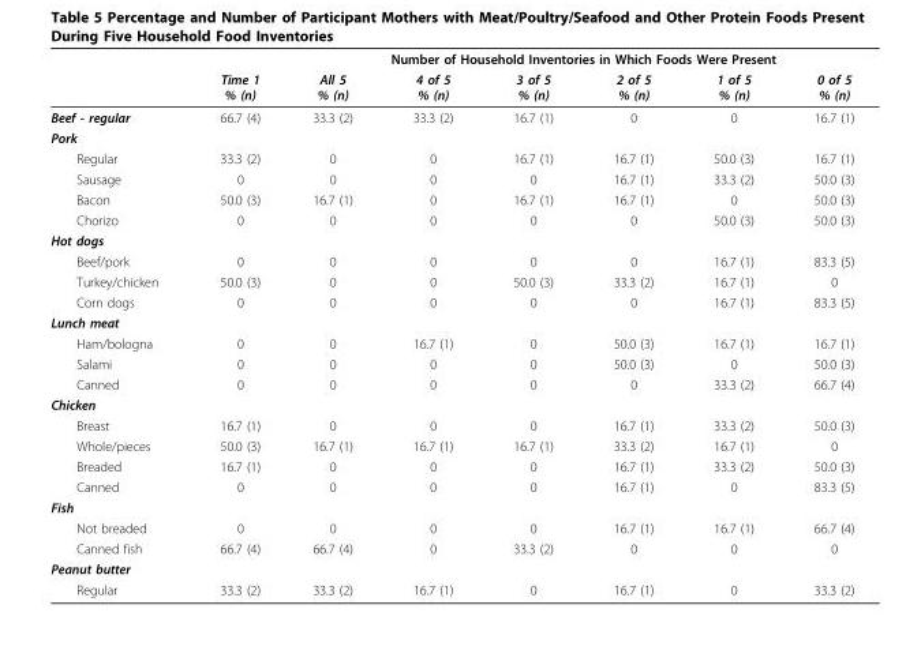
<table><thead><tr><td rowspan="2"></td><td rowspan="2">Time 1 % (n)</td><td colspan="6">Number of Household Inventories in Which Foods Were Present</td></tr><tr><td>All 5 % (n)</td><td>4 of 5 % (n)</td><td>3 of 5 % (n)</td><td>2 of 5 % (n)</td><td>1 of 5 % (n)</td><td>0 of 5 % (n)</td></tr></thead><tbody><tr><td>Beef - regular</td><td>66.7 (4)</td><td>33.3 (2)</td><td>33.3 (2)</td><td>16.7 (1)</td><td>0</td><td>0</td><td>16.7 (1)</td></tr><tr><td colspan="8">Pork</td></tr><tr><td>Regular</td><td>33.3 (2)</td><td>0</td><td>0</td><td>16.7 (1)</td><td>16.7 (1)</td><td>50.0 (3)</td><td>16.7 (1)</td></tr><tr><td>Sausage</td><td>0</td><td>0</td><td>0</td><td>0</td><td>16.7 (1)</td><td>33.3 (2)</td><td>50.0 (3)</td></tr><tr><td>Bacon</td><td>50.0 (3)</td><td>16.7 (1)</td><td>0</td><td>16.7 (1)</td><td>16.7 (1)</td><td>0</td><td>50.0 (3)</td></tr><tr><td>Chorizo</td><td>0</td><td>0</td><td>0</td><td>0</td><td>0</td><td>50.0 (3)</td><td>50.0 (3)</td></tr><tr><td colspan="8">Hot dogs</td></tr><tr><td>Beef/pork</td><td>0</td><td>0</td><td>0</td><td>0</td><td>0</td><td>16.7 (1)</td><td>83.3 (5)</td></tr><tr><td>Turkey/chicken</td><td>50.0 (3)</td><td>0</td><td>0</td><td>50.0 (3)</td><td>33.3 (2)</td><td>16.7 (1)</td><td>0</td></tr><tr><td>Corn dogs</td><td>0</td><td>0</td><td>0</td><td>0</td><td>0</td><td>16.7 (1)</td><td>83.3 (5)</td></tr><tr><td colspan="8">Lunch meat</td></tr><tr><td>Ham/bologna</td><td>0</td><td>0</td><td>16.7 (1)</td><td>0</td><td>50.0 (3)</td><td>16.7 (1)</td><td>16.7 (1)</td></tr><tr><td>Salami</td><td>0</td><td>0</td><td>0</td><td>0</td><td>50.0 (3)</td><td>0</td><td>50.0 (3)</td></tr><tr><td>Canned</td><td>0</td><td>0</td><td>0</td><td>0</td><td>0</td><td>33.3 (2)</td><td>66.7 (4)</td></tr><tr><td colspan="8">Chicken</td></tr><tr><td>Breast</td><td>16.7 (1)</td><td>0</td><td>0</td><td>0</td><td>16.7 (1)</td><td>33.3 (2)</td><td>50.0 (3)</td></tr><tr><td>Whole/pieces</td><td>50.0 (3)</td><td>16.7 (1)</td><td>16.7 (1)</td><td>16.7 (1)</td><td>33.3 (2)</td><td>16.7 (1)</td><td>0</td></tr><tr><td>Breaded</td><td>16.7 (1)</td><td>0</td><td>0</td><td>0</td><td>16.7 (1)</td><td>33.3 (2)</td><td>50.0 (3)</td></tr><tr><td>Canned</td><td>0</td><td>0</td><td>0</td><td>0</td><td>16.7 (1)</td><td>0</td><td>83.3 (5)</td></tr><tr><td colspan="8">Fish</td></tr><tr><td>Not breaded</td><td>0</td><td>0</td><td>0</td><td>0</td><td>16.7 (1)</td><td>16.7 (1)</td><td>66.7 (4)</td></tr><tr><td>Canned fish</td><td>66.7 (4)</td><td>66.7 (4)</td><td>0</td><td>33.3 (2)</td><td>0</td><td>0</td><td>0</td></tr><tr><td colspan="8">Peanut butter</td></tr><tr><td>Regular</td><td>33.3 (2)</td><td>33.3 (2)</td><td>16.7 (1)</td><td>0</td><td>16.7 (1)</td><td>0</td><td>33.3 (2)</td></tr></tbody></table>